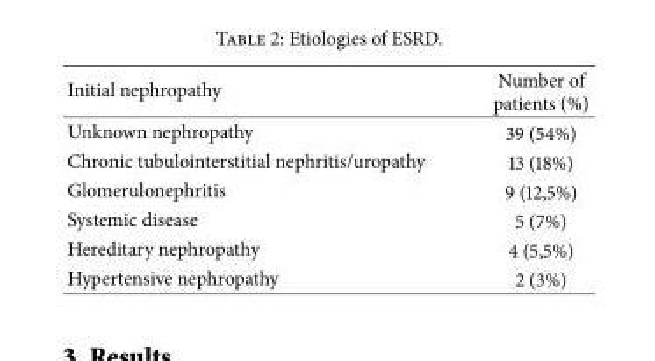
<table><thead><tr><td>Initial nephropathy</td><td>Number of patients (%)</td></tr></thead><tbody><tr><td>Unknown nephropathy</td><td>39 (54%)</td></tr><tr><td>Chronic tubulointerstitial nephritis/uropathy</td><td>13 (18%)</td></tr><tr><td>Glomerulonephritis</td><td>9 (12,5%)</td></tr><tr><td>Systemic disease</td><td>5 (7%)</td></tr><tr><td>Hereditary nephropathy</td><td>4 (5,5%)</td></tr><tr><td>Hypertensive nephropathy</td><td>2 (3%)</td></tr></tbody></table>